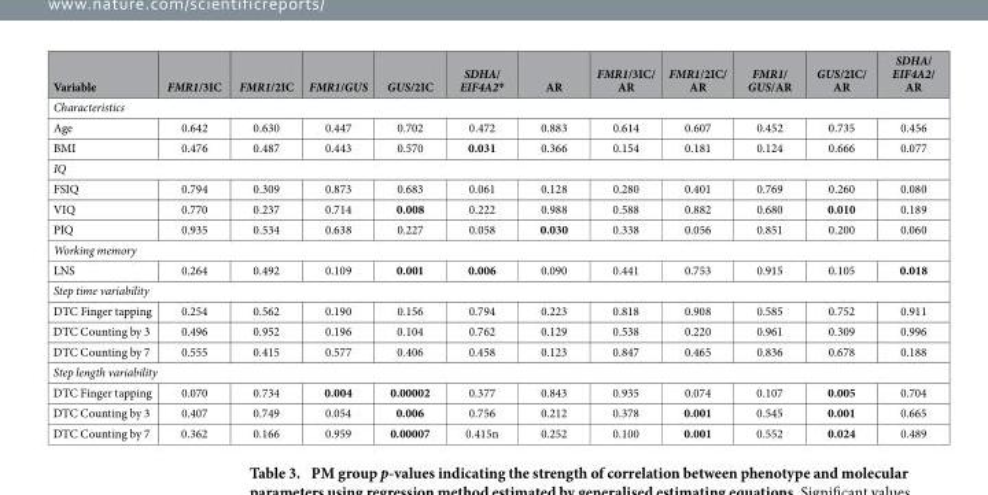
<table><thead><tr><td>Variable</td><td>FMR1/3IC</td><td>FMR1/2IC</td><td>FMR1/GUS</td><td>GUS/2IC</td><td>SDHA/ EIF4A2*</td><td>AR</td><td>FMR1/3IC/ AR</td><td>FMR1/2IC/ AR</td><td>FMR1/ GUS/AR</td><td>GUS/2IC/ AR</td><td>SDHA/ EIF4A2/ AR</td></tr></thead><tbody><tr><td colspan="12">Characteristics</td></tr><tr><td>Age</td><td>0.642</td><td>0.630</td><td>0.447</td><td>0.702</td><td>0.472</td><td>0.883</td><td>0.614</td><td>0.607</td><td>0.452</td><td>0.735</td><td>0.456</td></tr><tr><td>BMI</td><td>0.476</td><td>0.487</td><td>0.443</td><td>0.570</td><td>0.031</td><td>0.366</td><td>0.154</td><td>0.181</td><td>0.124</td><td>0.666</td><td>0.077</td></tr><tr><td colspan="12">IQ</td></tr><tr><td>FSIQ</td><td>0.794</td><td>0.309</td><td>0.873</td><td>0.683</td><td>0.061</td><td>0.128</td><td>0.280</td><td>0.401</td><td>0.769</td><td>0.260</td><td>0.080</td></tr><tr><td>VIQ</td><td>0.770</td><td>0.237</td><td>0.714</td><td>0.008</td><td>0.222</td><td>0.988</td><td>0.588</td><td>0.882</td><td>0.680</td><td>0.010</td><td>0.189</td></tr><tr><td>PIQ</td><td>0.935</td><td>0.534</td><td>0.638</td><td>0.227</td><td>0.058</td><td>0.030</td><td>0.338</td><td>0.056</td><td>0.851</td><td>0.200</td><td>0.060</td></tr><tr><td colspan="12">Working memory</td></tr><tr><td>LNS</td><td>0.264</td><td>0.492</td><td>0.109</td><td>0.001</td><td>0.006</td><td>0.090</td><td>0.441</td><td>0.753</td><td>0.915</td><td>0.105</td><td>0.018</td></tr><tr><td colspan="12">Step time variability</td></tr><tr><td>DTC Finger tapping</td><td>0.254</td><td>0.562</td><td>0.190</td><td>0.156</td><td>0.794</td><td>0.223</td><td>0.818</td><td>0.908</td><td>0.585</td><td>0.752</td><td>0.911</td></tr><tr><td>DTC Counting by 3</td><td>0.496</td><td>0.952</td><td>0.196</td><td>0.104</td><td>0.762</td><td>0.129</td><td>0.538</td><td>0.220</td><td>0.961</td><td>0.309</td><td>0.996</td></tr><tr><td>DTC Counting by 7</td><td>0.555</td><td>0.415</td><td>0.577</td><td>0.406</td><td>0.458</td><td>0.123</td><td>0.847</td><td>0.465</td><td>0.836</td><td>0.678</td><td>0.188</td></tr><tr><td colspan="12">Step length variability</td></tr><tr><td>DTC Finger tapping</td><td>0.070</td><td>0.734</td><td>0.004</td><td>0.00002</td><td>0.377</td><td>0.843</td><td>0.935</td><td>0.074</td><td>0.107</td><td>0.005</td><td>0.704</td></tr><tr><td>DTC Counting by 3</td><td>0.407</td><td>0.749</td><td>0.054</td><td>0.006</td><td>0.756</td><td>0.212</td><td>0.378</td><td>0.001</td><td>0.545</td><td>0.001</td><td>0.665</td></tr><tr><td>DTC Counting by 7</td><td>0.362</td><td>0.166</td><td>0.959</td><td>0.00007</td><td>0.415n</td><td>0.252</td><td>0.100</td><td>0.001</td><td>0.552</td><td>0.024</td><td>0.489</td></tr></tbody></table>